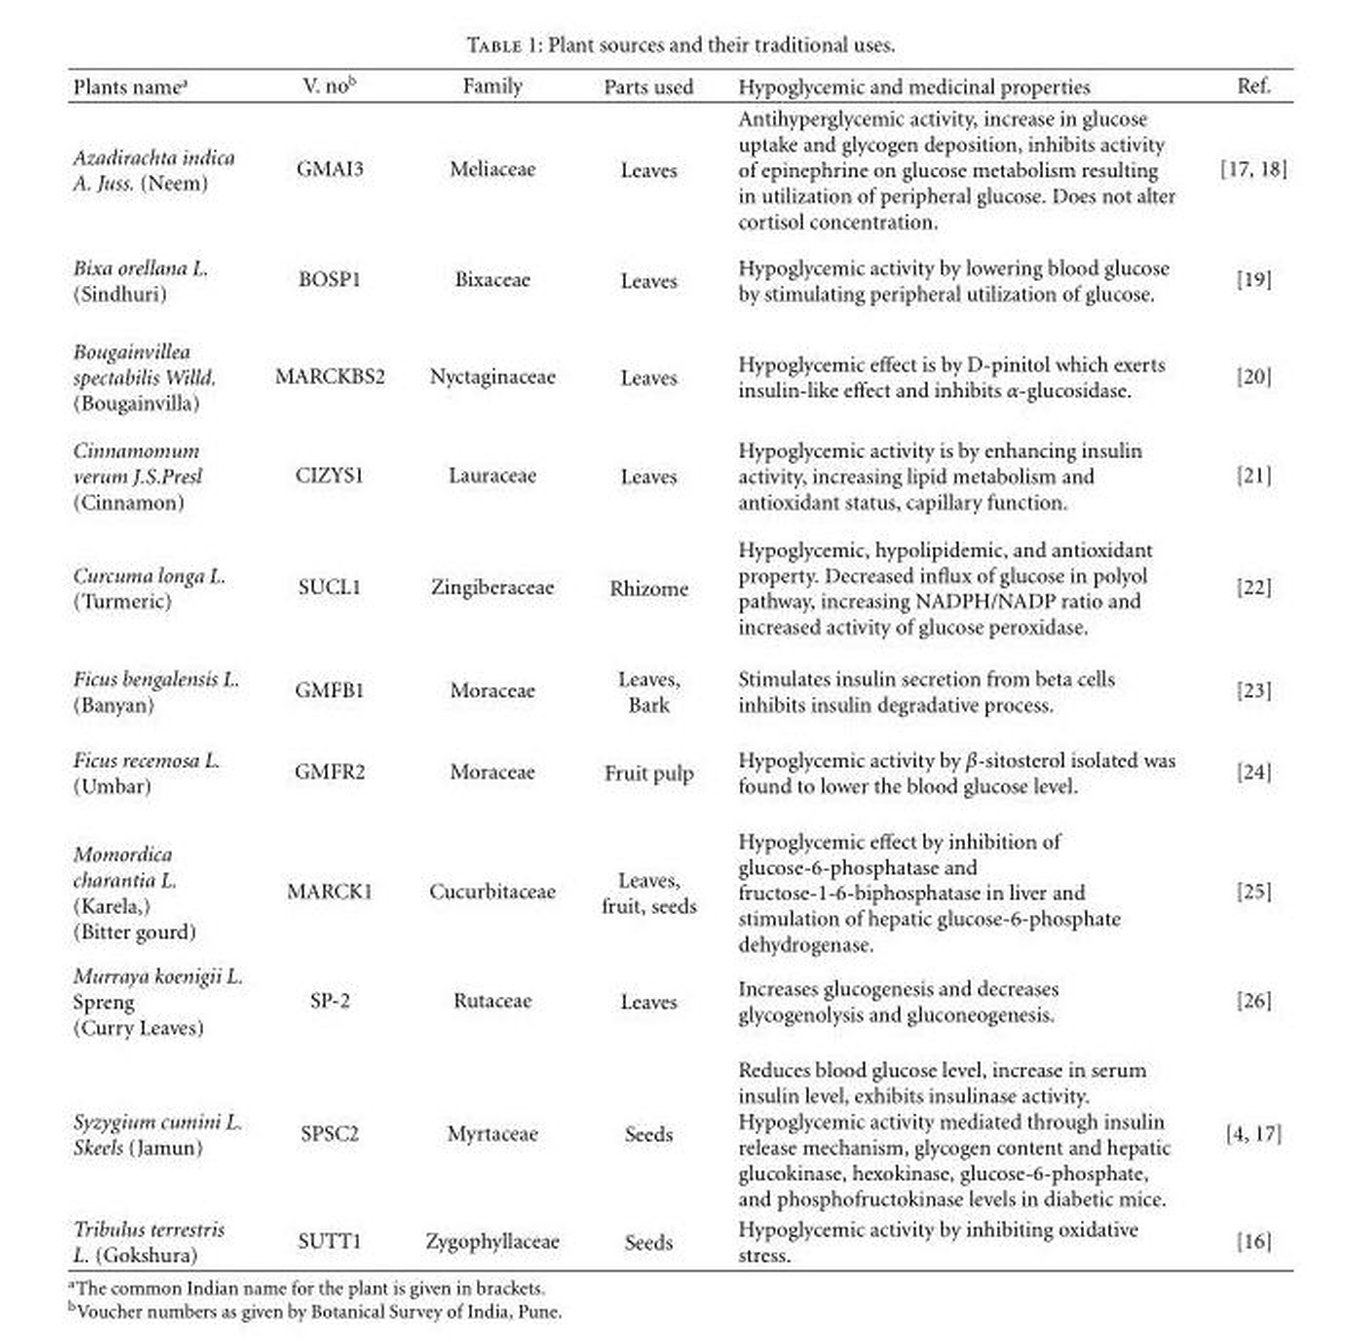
<table><thead><tr><td>Plants name<sup>a</sup></td><td>V. no<sup>b</sup></td><td>Family</td><td>Parts used</td><td>Hypoglycemic and medicinal properties</td><td>Ref.</td></tr></thead><tbody><tr><td>Azadirachta indica A. Juss. (Neem)</td><td>GMAI3</td><td>Meliaceae</td><td>Leaves</td><td>Antihyperglycemic activity, increase in glucose uptake and glycogen deposition, inhibits activity of epinephrine on glucose metabolism resulting in utilization of peripheral glucose. Does not alter cortisol concentration.</td><td>[17, 18]</td></tr><tr><td>Bixa orellana L. (Sindhuri)</td><td>BOSP1</td><td>Bixaceae</td><td>Leaves</td><td>Hypoglycemic activity by lowering blood glucose by stimulating peripheral utilization of glucose.</td><td>[19]</td></tr><tr><td>Bougainvillea spectabilis Willd. (Bougainvilla)</td><td>MARCKBS2</td><td>Nyctaginaceae</td><td>Leaves</td><td>Hypoglycemic effect is by D-pinitol which exerts insulin-like effect and inhibits α-glucosidase.</td><td>[20]</td></tr><tr><td>Cinnamomum verum J.S.Presl (Cinnamon)</td><td>CIZYS1</td><td>Lauraceae</td><td>Leaves</td><td>Hypoglycemic activity is by enhancing insulin activity, increasing lipid metabolism and antioxidant status, capillary function.</td><td>[21]</td></tr><tr><td>Curcuma longa L. (Turmeric)</td><td>SUCL1</td><td>Zingiberaceae</td><td>Rhizome</td><td>Hypoglycemic, hypolipidemic, and antioxidant property. Decreased influx of glucose in polyol pathway, increasing NADPH/NADP ratio and increased activity of glucose peroxidase.</td><td>[22]</td></tr><tr><td>Ficus bengalensis L. (Banyan)</td><td>GMFB1</td><td>Moraceae</td><td>Leaves, Bark</td><td>Stimulates insulin secretion from beta cells inhibits insulin degradative process.</td><td>[23]</td></tr><tr><td>Ficus recemosa L. (Umbar)</td><td>GMFR2</td><td>Moraceae</td><td>Fruit pulp</td><td>Hypoglycemic activity by β-sitosterol isolated was found to lower the blood glucose level.</td><td>[24]</td></tr><tr><td>Momordica charantia L. (Karela,) (Bitter gourd)</td><td>MARCK1</td><td>Cucurbitaceae</td><td>Leaves, fruit, seeds</td><td>Hypoglycemic effect by inhibition of glucose-6-phosphatase and fructose-1-6-biphosphatase in liver and stimulation of hepatic glucose-6-phosphate dehydrogenase.</td><td>[25]</td></tr><tr><td>Murraya koenigii L. Spreng (Curry Leaves)</td><td>SP-2</td><td>Rutaceae</td><td>Leaves</td><td>Increases glucogenesis and decreases glycogenolysis and gluconeogenesis.</td><td>[26]</td></tr><tr><td>Syzygium cumini L. Skeels (Jamun)</td><td>SPSC2</td><td>Myrtaceae</td><td>Seeds</td><td>Reduces blood glucose level, increase in serum insulin level, exhibits insulinase activity. Hypoglycemic activity mediated through insulin release mechanism, glycogen content and hepatic glucokinase, hexokinase, glucose-6-phosphate, and phosphofructokinase levels in diabetic mice.</td><td>[4, 17]</td></tr><tr><td>Tribulus terrestris L. (Gokshura)</td><td>SUTT1</td><td>Zygophyllaceae</td><td>Seeds</td><td>Hypoglycemic activity by inhibiting oxidative stress.</td><td>[16]</td></tr></tbody></table>